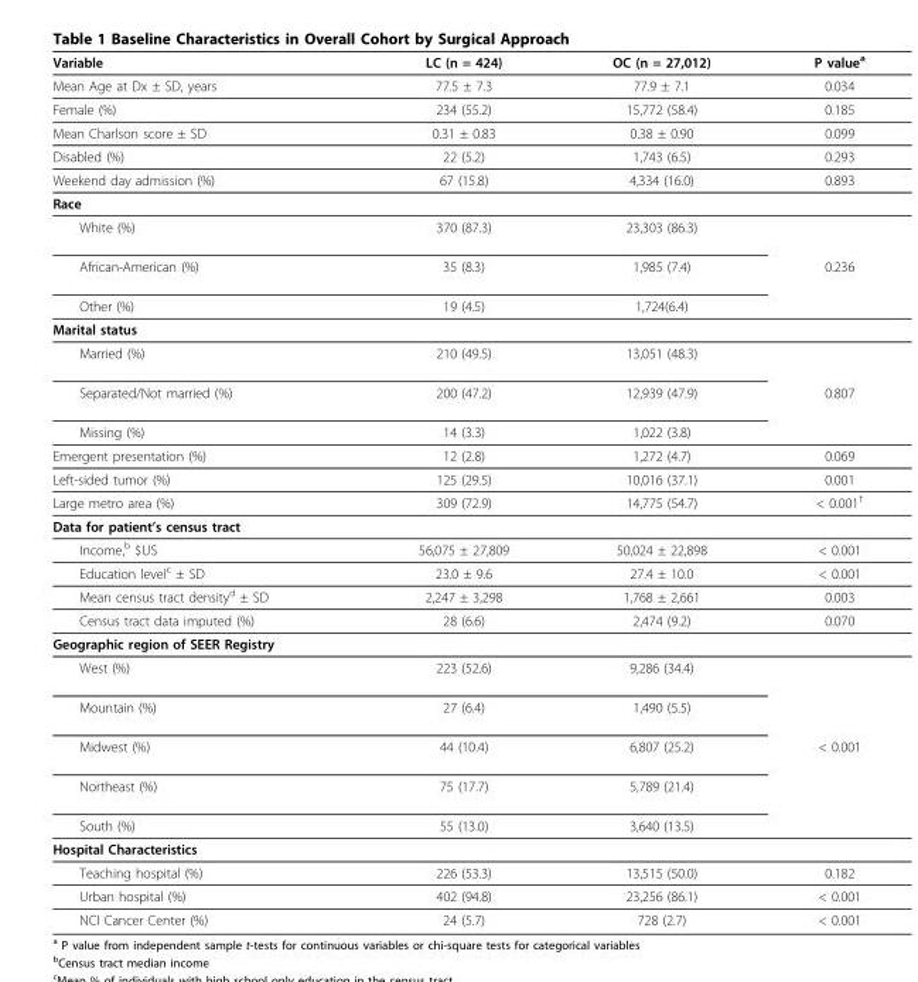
<table><thead><tr><td>Variable</td><td>LC (n = 424)</td><td>OC (n = 27,012)</td><td>P value<sup>a</sup></td></tr></thead><tbody><tr><td>Mean Age at Dx ± SD, years</td><td>77.5 ± 7.3</td><td>77.9 ± 7.1</td><td>0.034</td></tr><tr><td>Female (%)</td><td>234 (55.2)</td><td>15,772 (58.4)</td><td>0.185</td></tr><tr><td>Mean Charlson score ± SD</td><td>0.31 ± 0.83</td><td>0.38 ± 0.90</td><td>0.099</td></tr><tr><td>Disabled (%)</td><td>22 (5.2)</td><td>1,743 (6.5)</td><td>0.293</td></tr><tr><td>Weekend day admission (%)</td><td>67 (15.8)</td><td>4,334 (16.0)</td><td>0.893</td></tr><tr><td colspan="4">Race</td></tr><tr><td>White (%)</td><td>370 (87.3)</td><td>23,303 (86.3)</td><td></td></tr><tr><td>African-American (%)</td><td>35 (8.3)</td><td>1,985 (7.4)</td><td>0.236</td></tr><tr><td>Other (%)</td><td>19 (4.5)</td><td>1,724(6.4)</td><td></td></tr><tr><td colspan="4">Marital status</td></tr><tr><td>Married (%)</td><td>210 (49.5)</td><td>13,051 (48.3)</td><td></td></tr><tr><td>Separated/Not married (%)</td><td>200 (47.2)</td><td>12,939 (47.9)</td><td>0.807</td></tr><tr><td>Missing (%)</td><td>14 (3.3)</td><td>1,022 (3.8)</td><td></td></tr><tr><td>Emergent presentation (%)</td><td>12 (2.8)</td><td>1,272 (4.7)</td><td>0.069</td></tr><tr><td>Left-sided tumor (%)</td><td>125 (29.5)</td><td>10,016 (37.1)</td><td>0.001</td></tr><tr><td>Large metro area (%)</td><td>309 (72.9)</td><td>14,775 (54.7)</td><td>&lt; 0.001<sup>†</sup></td></tr><tr><td colspan="4">Data for patient’s census tract</td></tr><tr><td>Income,<sup>b</sup> $US</td><td>56,075 ± 27,809</td><td>50,024 ± 22,898</td><td>&lt; 0.001</td></tr><tr><td>Education level<sup>c</sup> ± SD</td><td>23.0 ± 9.6</td><td>27.4 ± 10.0</td><td>&lt; 0.001</td></tr><tr><td>Mean census tract density<sup>d</sup> ± SD</td><td>2,247 ± 3,298</td><td>1,768 ± 2,661</td><td>0.003</td></tr><tr><td>Census tract data imputed (%)</td><td>28 (6.6)</td><td>2,474 (9.2)</td><td>0.070</td></tr><tr><td colspan="4">Geographic region of SEER Registry</td></tr><tr><td>West (%)</td><td>223 (52.6)</td><td>9,286 (34.4)</td><td></td></tr><tr><td>Mountain (%)</td><td>27 (6.4)</td><td>1,490 (5.5)</td><td></td></tr><tr><td>Midwest (%)</td><td>44 (10.4)</td><td>6,807 (25.2)</td><td>&lt; 0.001</td></tr><tr><td>Northeast (%)</td><td>75 (17.7)</td><td>5,789 (21.4)</td><td></td></tr><tr><td>South (%)</td><td>55 (13.0)</td><td>3,640 (13.5)</td><td></td></tr><tr><td colspan="4">Hospital Characteristics</td></tr><tr><td>Teaching hospital (%)</td><td>226 (53.3)</td><td>13,515 (50.0)</td><td>0.182</td></tr><tr><td>Urban hospital (%)</td><td>402 (94.8)</td><td>23,256 (86.1)</td><td>&lt; 0.001</td></tr><tr><td>NCI Cancer Center (%)</td><td>24 (5.7)</td><td>728 (2.7)</td><td>&lt; 0.001</td></tr></tbody></table>